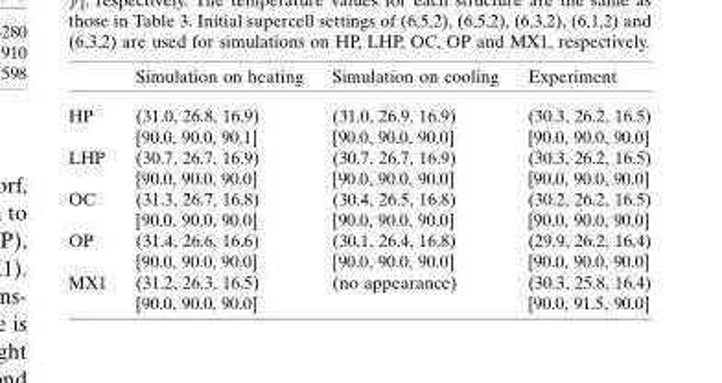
<table><thead><tr><td></td><td>Simulation on heating</td><td>Simulation on cooling</td><td>Experiment</td></tr></thead><tbody><tr><td rowspan="2">HP</td><td>(31.0, 26.8, 16.9)</td><td>(31.0, 26.9, 16.9)</td><td>(30.3, 26.2, 16.5)</td></tr><tr><td>[90.0, 90.0, 90.1]</td><td>[90.0, 90.0, 90.0]</td><td>[90.0, 90.0, 90.0]</td></tr><tr><td rowspan="2">LHP</td><td>(30.7, 26.7, 16.9)</td><td>(30.7, 26.7, 16.9)</td><td>(30.3, 26.2, 16.5)</td></tr><tr><td>[90.0, 90.0, 90.0]</td><td>[90.0, 90.0, 90.0]</td><td>[90.0, 90.0, 90.0]</td></tr><tr><td rowspan="2">OC</td><td>(31.3, 26.7, 16.8)</td><td>(30.4, 26.5, 16.8)</td><td>(30.2, 26.2, 16.5)</td></tr><tr><td>[90.0, 90.0, 90.0]</td><td>[90.0, 90.0, 90.0]</td><td>[90.0, 90.0, 90.0]</td></tr><tr><td rowspan="2">OP</td><td>(31.4, 26.6, 16.6)</td><td>(30.1, 26.4, 16.8)</td><td>(29.9, 26.2, 16.4)</td></tr><tr><td>[90.0, 90.0, 90.0]</td><td>[90.0, 90.0, 90.0]</td><td>[90.0, 90.0, 90.0]</td></tr><tr><td rowspan="2">MX1</td><td>(31.2, 26.3, 16.5)</td><td>(no appearance)</td><td>(30.3, 25.8, 16.4)</td></tr><tr><td>[90.0, 90.0, 90.0]</td><td></td><td>[90.0, 91.5, 90.0]</td></tr></tbody></table>